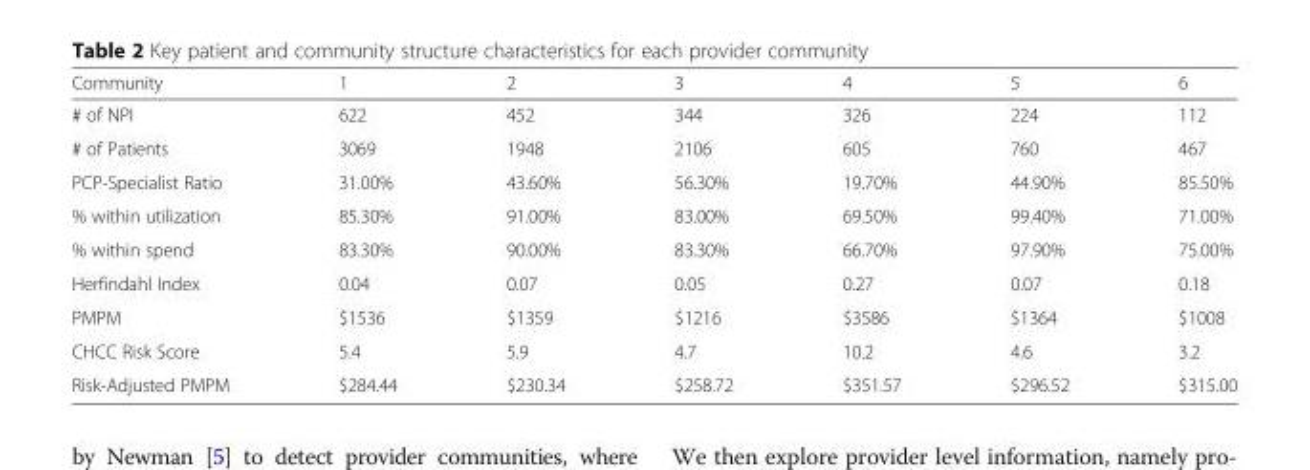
<table><thead><tr><td>Community</td><td>1</td><td>2</td><td>3</td><td>4</td><td>5</td><td>6</td></tr></thead><tbody><tr><td># of NPI</td><td>622</td><td>452</td><td>344</td><td>326</td><td>224</td><td>112</td></tr><tr><td># of Patients</td><td>3069</td><td>1948</td><td>2106</td><td>605</td><td>760</td><td>467</td></tr><tr><td>PCP-Specialist Ratio</td><td>31.00%</td><td>43.60%</td><td>56.30%</td><td>19.70%</td><td>44.90%</td><td>85.50%</td></tr><tr><td>% within utilization</td><td>85.30%</td><td>91.00%</td><td>83.00%</td><td>69.50%</td><td>99.40%</td><td>71.00%</td></tr><tr><td>% within spend</td><td>83.30%</td><td>90.00%</td><td>83.30%</td><td>66.70%</td><td>97.90%</td><td>75.00%</td></tr><tr><td>Herfindahl Index</td><td>0.04</td><td>0.07</td><td>0.05</td><td>0.27</td><td>0.07</td><td>0.18</td></tr><tr><td>PMPM</td><td>$1536</td><td>$1359</td><td>$1216</td><td>$3586</td><td>$1364</td><td>$1008</td></tr><tr><td>CHCC Risk Score</td><td>5.4</td><td>5.9</td><td>4.7</td><td>10.2</td><td>4.6</td><td>3.2</td></tr><tr><td>Risk-Adjusted PMPM</td><td>$284.44</td><td>$230.34</td><td>$258.72</td><td>$351.57</td><td>$296.52</td><td>$315.00</td></tr></tbody></table>